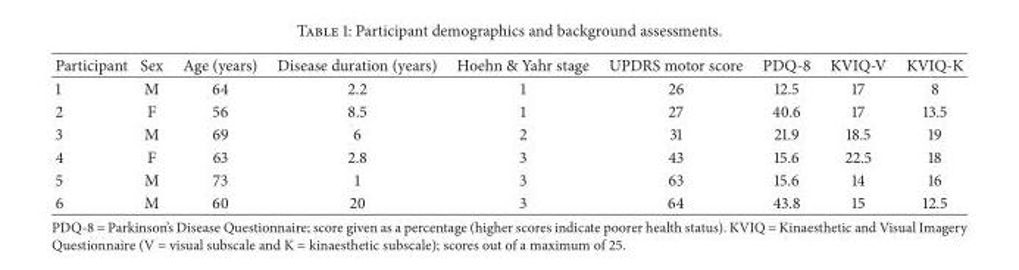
<table><thead><tr><td>Participant</td><td>Sex</td><td>Age (years)</td><td>Disease duration (years)</td><td>Hoehn &amp; Yahr stage</td><td>UPDRS motor score</td><td>PDQ-8</td><td>KVIQ-V</td><td>KVIQ-K</td></tr></thead><tbody><tr><td>1</td><td>M</td><td>64</td><td>2.2</td><td>1</td><td>26</td><td>12.5</td><td>17</td><td>8</td></tr><tr><td>2</td><td>F</td><td>56</td><td>8.5</td><td>1</td><td>27</td><td>40.6</td><td>17</td><td>13.5</td></tr><tr><td>3</td><td>M</td><td>69</td><td>6</td><td>2</td><td>31</td><td>21.9</td><td>18.5</td><td>19</td></tr><tr><td>4</td><td>F</td><td>63</td><td>2.8</td><td>3</td><td>43</td><td>15.6</td><td>22.5</td><td>18</td></tr><tr><td>5</td><td>M</td><td>73</td><td>1</td><td>3</td><td>63</td><td>15.6</td><td>14</td><td>16</td></tr><tr><td>6</td><td>M</td><td>60</td><td>20</td><td>3</td><td>64</td><td>43.8</td><td>15</td><td>12.5</td></tr></tbody></table>